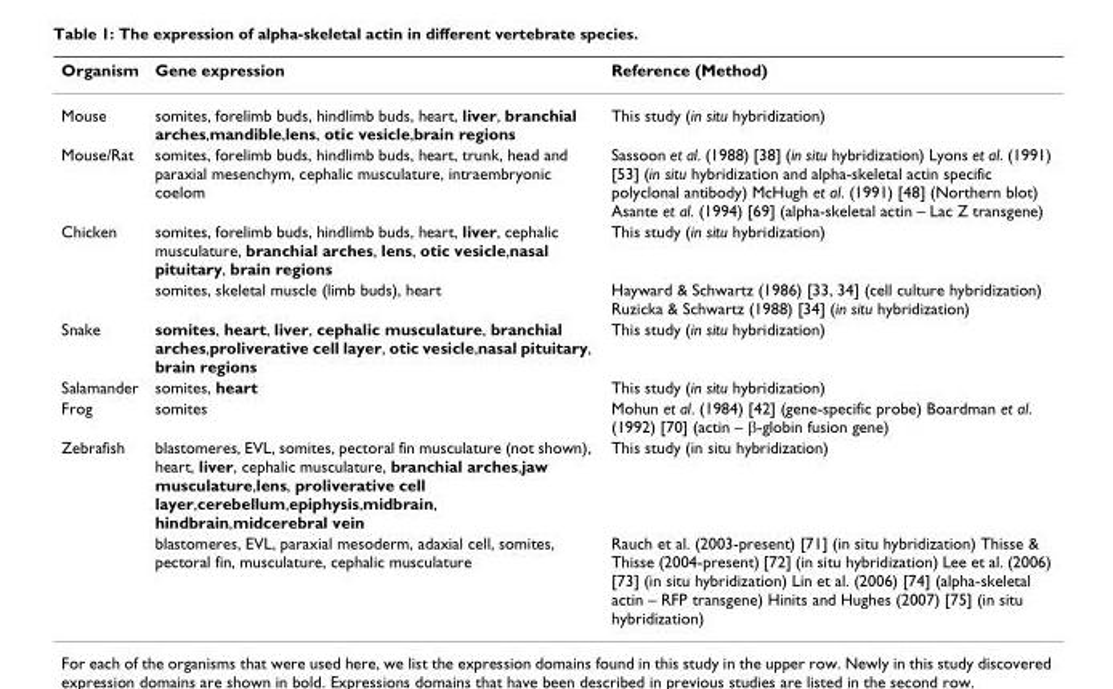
<table><thead><tr><td>Organism</td><td>Gene expression</td><td>Reference (Method)</td></tr></thead><tbody><tr><td>Mouse</td><td>somites, forelimb buds, hindlimb buds, heart, liver, branchial arches,mandible,lens, otic vesicle,brain regions</td><td>This study (in situ hybridization)</td></tr><tr><td>Mouse/Rat</td><td>somites, forelimb buds, hindlimb buds, heart, trunk, head and paraxial mesenchym, cephalic musculature, intraembryonic coelom</td><td>Sassoon et al. (1988) [38] (in situ hybridization) Lyons et al. (1991) [53] (in situ hybridization and alpha-skeletal actin specific polyclonal antibody) McHugh et al. (1991) [48] (Northern blot) Asante et al. (1994) [69] (alpha-skeletal actin – Lac Z transgene)</td></tr><tr><td rowspan="2">Chicken</td><td>somites, forelimb buds, hindlimb buds, heart, liver, cephalic musculature, branchial arches, lens, otic vesicle,nasal pituitary, brain regions</td><td>This study (in situ hybridization)</td></tr><tr><td>somites, skeletal muscle (limb buds), heart</td><td>Hayward &amp; Schwartz (1986) [33, 34] (cell culture hybridization) Ruzicka &amp; Schwartz (1988) [34] (in situ hybridization)</td></tr><tr><td>Snake</td><td>somites, heart, liver, cephalic musculature, branchial arches,proliverative cell layer, otic vesicle,nasal pituitary, brain regions</td><td>This study (in situ hybridization)</td></tr><tr><td>Salamander</td><td>somites, heart</td><td>This study (in situ hybridization)</td></tr><tr><td>Frog</td><td>somites</td><td>Mohun et al. (1984) [42] (gene-specific probe) Boardman et al. (1992) [70] (actin – β-globin fusion gene)</td></tr><tr><td rowspan="2">Zebrafish</td><td>blastomeres, EVL, somites, pectoral fin musculature (not shown), heart, liver, cephalic musculature, branchial arches,jaw musculature,lens, proliverative cell layer,cerebellum,epiphysis,midbrain, hindbrain,midcerebral vein</td><td>This study (in situ hybridization)</td></tr><tr><td>blastomeres, EVL, paraxial mesoderm, adaxial cell, somites, pectoral fin, musculature, cephalic musculature</td><td>Rauch et al. (2003-present) [71] (in situ hybridization) Thisse &amp; Thisse (2004-present) [72] (in situ hybridization) Lee et al. (2006) [73] (in situ hybridization) Lin et al. (2006) [74] (alpha-skeletal actin – RFP transgene) Hinits and Hughes (2007) [75] (in situ hybridization)</td></tr></tbody></table>